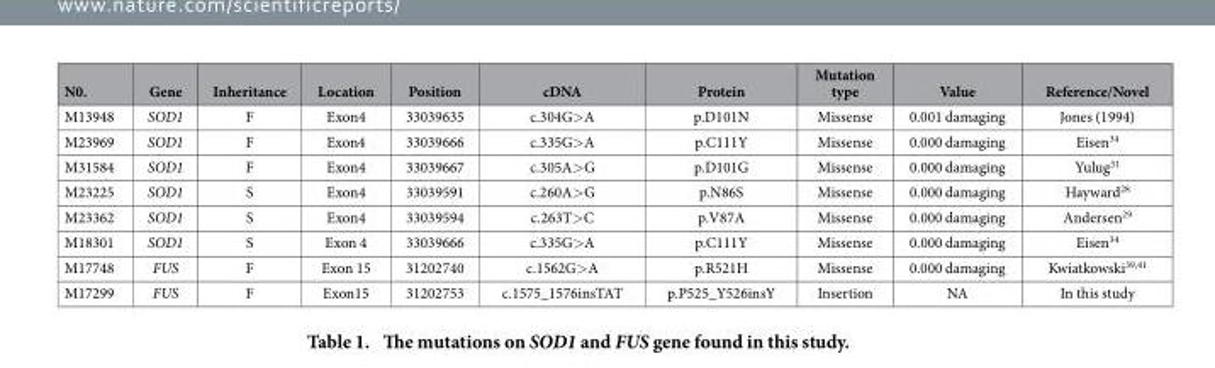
<table><thead><tr><td>N0.</td><td>Gene</td><td>Inheritance</td><td>Location</td><td>Position</td><td>cDNA</td><td>Protein</td><td>Mutation type</td><td>Value</td><td>Reference/Novel</td></tr></thead><tbody><tr><td>M13948</td><td>SOD1</td><td>F</td><td>Exon4</td><td>33039635</td><td>c.304G&gt; A</td><td>p.D101N</td><td>Missense</td><td>0.001 damaging</td><td>Jones (1994)</td></tr><tr><td>M23969</td><td>SOD1</td><td>F</td><td>Exon4</td><td>33039666</td><td>c.335G&gt; A</td><td>p.C111Y</td><td>Missense</td><td>0.000 damaging</td><td>Eisen<sup>34</sup></td></tr><tr><td>M31584</td><td>SOD1</td><td>F</td><td>Exon4</td><td>33039667</td><td>c.305A&gt; G</td><td>p.D101G</td><td>Missense</td><td>0.000 damaging</td><td>Yulug<sup>31</sup></td></tr><tr><td>M23225</td><td>SOD1</td><td>S</td><td>Exon4</td><td>33039591</td><td>c.260A&gt; G</td><td>p.N86S</td><td>Missense</td><td>0.000 damaging</td><td>Hayward<sup>28</sup></td></tr><tr><td>M23362</td><td>SOD1</td><td>S</td><td>Exon4</td><td>33039594</td><td>c.263T&gt; C</td><td>p.V87A</td><td>Missense</td><td>0.000 damaging</td><td>Andersen<sup>29</sup></td></tr><tr><td>M18301</td><td>SOD1</td><td>S</td><td>Exon 4</td><td>33039666</td><td>c.335G&gt; A</td><td>p.C111Y</td><td>Missense</td><td>0.000 damaging</td><td>Eisen<sup>34</sup></td></tr><tr><td>M17748</td><td>FUS</td><td>F</td><td>Exon 15</td><td>31202740</td><td>c.1562G&gt; A</td><td>p.R521H</td><td>Missense</td><td>0.000 damaging</td><td>Kwiatkowski<sup>39</sup>,<sup>41</sup></td></tr><tr><td>M17299</td><td>FUS</td><td>F</td><td>Exon15</td><td>31202753</td><td>c.1575_1576insTAT</td><td>p.P525_Y526insY</td><td>Insertion</td><td>NA</td><td>In this study</td></tr></tbody></table>